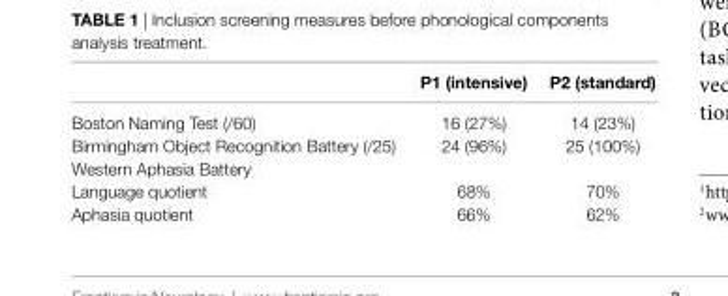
<table><thead><tr><td></td><td>p1 (intensive)</td><td>p2 (standard)</td></tr></thead><tbody><tr><td>Boston Naming Test (/60)</td><td>16 (27%)</td><td>14 (23%)</td></tr><tr><td>Birmingham Object Recognition Battery (/25)</td><td>24 (96%)</td><td>25 (100%)</td></tr><tr><td colspan="3">Western Aphasia Battery</td></tr><tr><td>Language quotient</td><td>68%</td><td>70%</td></tr><tr><td>Aphasia quotient</td><td>66%</td><td>62%</td></tr></tbody></table>